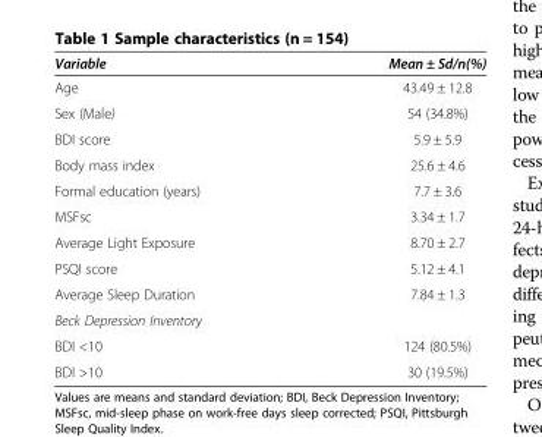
<table><thead><tr><td>Variable</td><td>Mean ± Sd/n(%)</td></tr></thead><tbody><tr><td>Age</td><td>43.49 ± 12.8</td></tr><tr><td>Sex (Male)</td><td>54 (34.8%)</td></tr><tr><td>BDI score</td><td>5.9 ± 5.9</td></tr><tr><td>Body mass index</td><td>25.6 ± 4.6</td></tr><tr><td>Formal education (years)</td><td>7.7 ± 3.6</td></tr><tr><td>MSFsc</td><td>3.34 ± 1.7</td></tr><tr><td>Average Light Exposure</td><td>8.70 ± 2.7</td></tr><tr><td>PSQI score</td><td>5.12 ± 4.1</td></tr><tr><td>Average Sleep Duration</td><td>7.84 ± 1.3</td></tr><tr><td colspan="2">Beck Depression Inventory</td></tr><tr><td>BDI &lt;10</td><td>124 (80.5%)</td></tr><tr><td>BDI &gt;10</td><td>30 (19.5%)</td></tr></tbody></table>